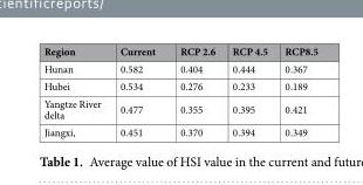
<table><thead><tr><td>Region</td><td>Current</td><td>RCP 2.6</td><td>RCP 4.5</td><td>RCP8.5</td></tr></thead><tbody><tr><td>Hunan</td><td>0.582</td><td>0.404</td><td>0.444</td><td>0.367</td></tr><tr><td>Hubei</td><td>0.534</td><td>0.276</td><td>0.233</td><td>0.189</td></tr><tr><td>Yangtze River delta</td><td>0.477</td><td>0.355</td><td>0.395</td><td>0.421</td></tr><tr><td>Jiangxi,</td><td>0.451</td><td>0.370</td><td>0.394</td><td>0.349</td></tr></tbody></table>